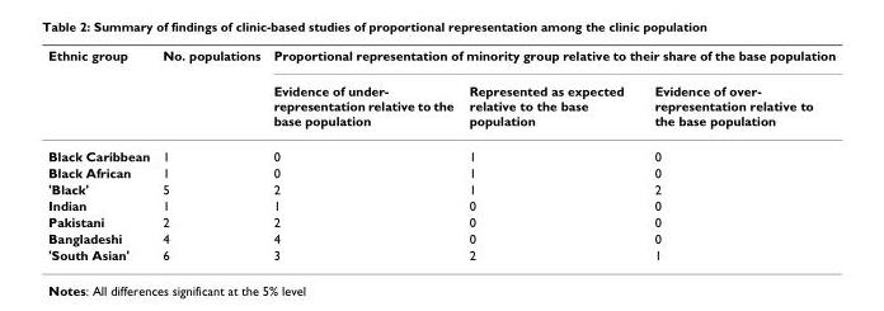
<table><thead><tr><td rowspan="2">Ethnic group</td><td rowspan="2">No. populations</td><td colspan="3">Proportional representation of minority group relative to their share of the base population</td></tr><tr><td>Evidence of under- representation relative to the base population</td><td>Represented as expected relative to the base population</td><td>Evidence of over- representation relative to the base population</td></tr></thead><tbody><tr><td>Black Caribbean</td><td>1</td><td>0</td><td>1</td><td>0</td></tr><tr><td>Black African</td><td>1</td><td>0</td><td>1</td><td>0</td></tr><tr><td>&#x27;Black&#x27;</td><td>5</td><td>2</td><td>1</td><td>2</td></tr><tr><td>Indian</td><td>1</td><td>1</td><td>0</td><td>0</td></tr><tr><td>Pakistani</td><td>2</td><td>2</td><td>0</td><td>0</td></tr><tr><td>Bangladeshi</td><td>4</td><td>4</td><td>0</td><td>0</td></tr><tr><td>&#x27;South Asian&#x27;</td><td>6</td><td>3</td><td>2</td><td>1</td></tr></tbody></table>